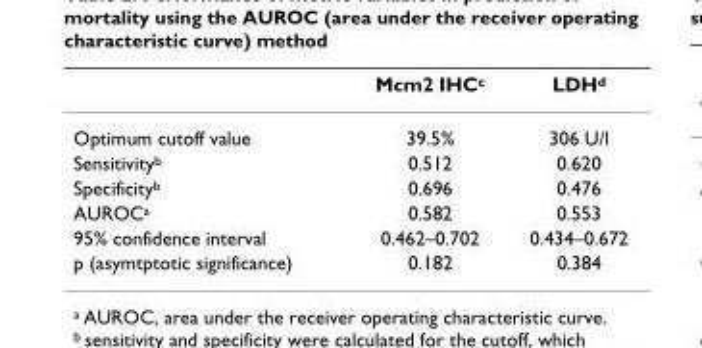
<table><thead><tr><td></td><td>Mcm2 IHCc</td><td>LDHd</td></tr></thead><tbody><tr><td>Optimum cutoff value</td><td>39.5%</td><td>306 U/l</td></tr><tr><td>Sensitivityb</td><td>0.512</td><td>0.620</td></tr><tr><td>Specificityb</td><td>0.696</td><td>0.476</td></tr><tr><td>AUROCa</td><td>0.582</td><td>0.553</td></tr><tr><td>95% confidence interval</td><td>0.462–0.702</td><td>0.434–0.672</td></tr><tr><td>p (asymtptotic significance)</td><td>0.182</td><td>0.384</td></tr></tbody></table>